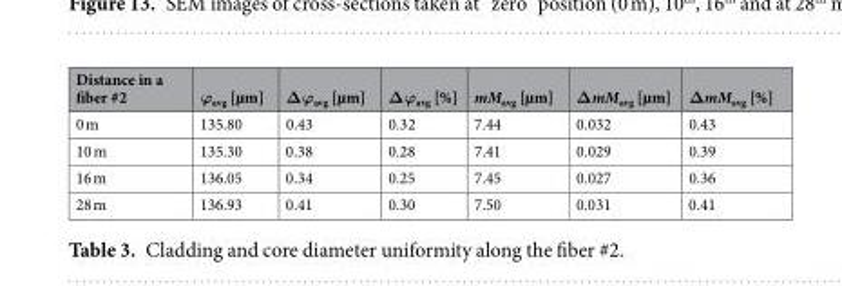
<table><thead><tr><td>Distance in a fiber #2</td><td>ϕ<sub>avg</sub> [µm]</td><td>Δϕ<sub>avg</sub> [µm]</td><td>Δϕ<sub>avg</sub> [%]</td><td>mM<sub>avg</sub> [µm]</td><td>ΔmM<sub>avg</sub> [µm]</td><td>ΔmM<sub>avg</sub> [%]</td></tr></thead><tbody><tr><td>0 m</td><td>135.80</td><td>0.43</td><td>0.32</td><td>7.44</td><td>0.032</td><td>0.43</td></tr><tr><td>10 m</td><td>135.30</td><td>0.38</td><td>0.28</td><td>7.41</td><td>0.029</td><td>0.39</td></tr><tr><td>16 m</td><td>136.05</td><td>0.34</td><td>0.25</td><td>7.45</td><td>0.027</td><td>0.36</td></tr><tr><td>28 m</td><td>136.93</td><td>0.41</td><td>0.30</td><td>7.50</td><td>0.031</td><td>0.41</td></tr></tbody></table>